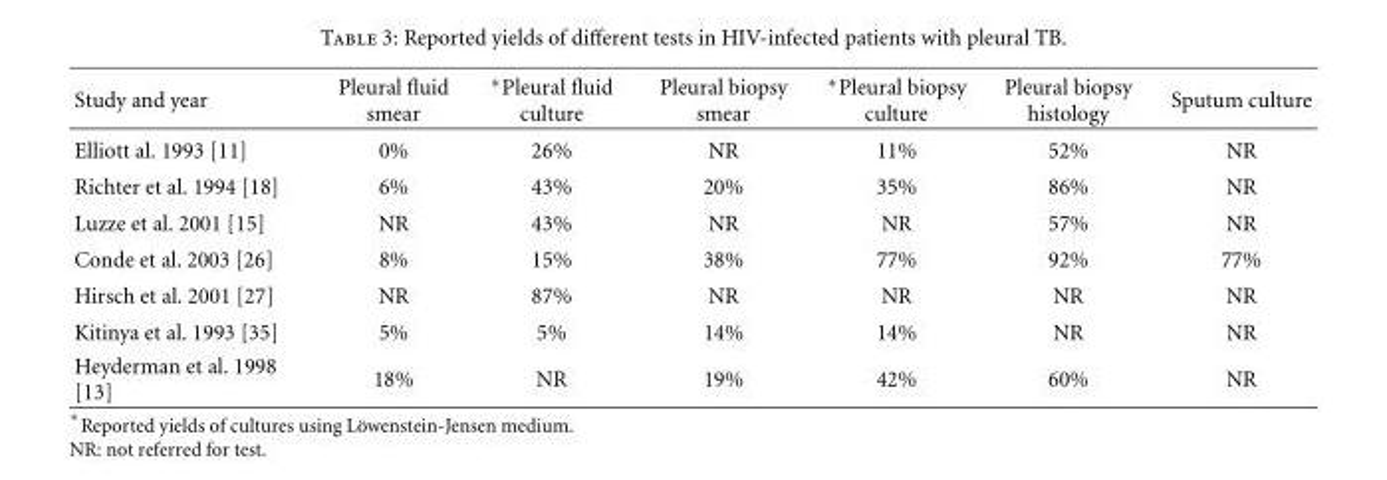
<table><thead><tr><td>Study and year</td><td>Pleural fluid smear</td><td>∗Pleural fluid culture</td><td>Pleural biopsy smear</td><td>∗Pleural biopsy culture</td><td>Pleural biopsy histology</td><td>Sputum culture</td></tr></thead><tbody><tr><td>Elliott al. 1993 [11]</td><td>0%</td><td>26%</td><td>NR</td><td>11%</td><td>52%</td><td>NR</td></tr><tr><td>Richter et al. 1994 [18]</td><td>6%</td><td>43%</td><td>20%</td><td>35%</td><td>86%</td><td>NR</td></tr><tr><td>Luzze et al. 2001 [15]</td><td>NR</td><td>43%</td><td>NR</td><td>NR</td><td>57%</td><td>NR</td></tr><tr><td>Conde et al. 2003 [26]</td><td>8%</td><td>15%</td><td>38%</td><td>77%</td><td>92%</td><td>77%</td></tr><tr><td>Hirsch et al. 2001 [27]</td><td>NR</td><td>87%</td><td>NR</td><td>NR</td><td>NR</td><td>NR</td></tr><tr><td>Kitinya et al. 1993 [35]</td><td>5%</td><td>5%</td><td>14%</td><td>14%</td><td>NR</td><td>NR</td></tr><tr><td>Heyderman et al. 1998 [13]</td><td>18%</td><td>NR</td><td>19%</td><td>42%</td><td>60%</td><td>NR</td></tr></tbody></table>